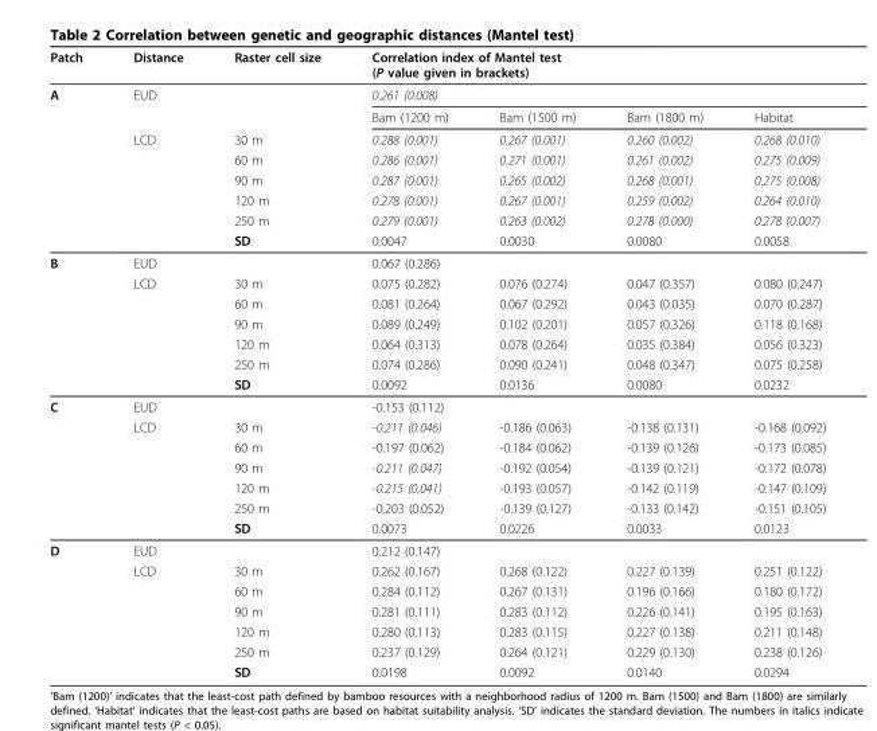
<table><thead><tr><td rowspan="2">Patch A</td><td rowspan="2">Distance EUD</td><td rowspan="2">Raster cell size</td><td colspan="4">Correlation index of Mantel test (P value given in brackets)</td></tr><tr><td>0.261 (0.008)</td><td></td><td></td><td></td></tr></thead><tbody><tr><td></td><td></td><td></td><td>Bam (1200 m)</td><td>Bam (1500 m)</td><td>Bam (1800 m)</td><td>Habitat</td></tr><tr><td></td><td>LCD</td><td>30 m</td><td>0.288 (0.001)</td><td>0.267 (0.001)</td><td>0.260 (0.002)</td><td>0.268 (0.010)</td></tr><tr><td></td><td></td><td>60 m</td><td>0.286 (0.001)</td><td>0.271 (0.001)</td><td>0.261 (0.002)</td><td>0.275 (0.009)</td></tr><tr><td></td><td></td><td>90 m</td><td>0.287 (0.001)</td><td>0.265 (0.002)</td><td>0.268 (0.001)</td><td>0.275 (0.008)</td></tr><tr><td></td><td></td><td>120 m</td><td>0.278 (0.001)</td><td>0.267 (0.001)</td><td>0.259 (0.002)</td><td>0.264 (0.010)</td></tr><tr><td></td><td></td><td>250 m</td><td>0.279 (0.001)</td><td>0.263 (0.002)</td><td>0.278 (0.000)</td><td>0.278 (0.007)</td></tr><tr><td></td><td></td><td>SD</td><td>0.0047</td><td>0.0030</td><td>0.0080</td><td>0.0058</td></tr><tr><td rowspan="7">B</td><td>EUD</td><td></td><td>0.067 (0.286)</td><td></td><td></td><td></td></tr><tr><td>LCD</td><td>30 m</td><td>0.075 (0.282)</td><td>0.076 (0.274)</td><td>0.047 (0.357)</td><td>0.080 (0.247)</td></tr><tr><td></td><td>60 m</td><td>0.081 (0.264)</td><td>0.067 (0.292)</td><td>0.043 (0.035)</td><td>0.070 (0.287)</td></tr><tr><td></td><td>90 m</td><td>0.089 (0.249)</td><td>0.102 (0.201)</td><td>0.057 (0.326)</td><td>0.118 (0.168)</td></tr><tr><td></td><td>120 m</td><td>0.064 (0.313)</td><td>0.078 (0.264)</td><td>0.035 (0.384)</td><td>0.056 (0.323)</td></tr><tr><td></td><td>250 m</td><td>0.074 (0.286)</td><td>0.090 (0.241)</td><td>0.048 (0.347)</td><td>0.075 (0.258)</td></tr><tr><td></td><td>SD</td><td>0.0092</td><td>0.0136</td><td>0.0080</td><td>0.0232</td></tr><tr><td rowspan="7">C</td><td>EUD</td><td></td><td>-0.153 (0.112)</td><td></td><td></td><td></td></tr><tr><td>LCD</td><td>30 m</td><td>-0.211 (0.046)</td><td>-0.186 (0.063)</td><td>-0.138 (0.131)</td><td>-0.168 (0.092)</td></tr><tr><td></td><td>60 m</td><td>-0.197 (0.062)</td><td>-0.184 (0.062)</td><td>-0.139 (0.126)</td><td>-0.173 (0.085)</td></tr><tr><td></td><td>90 m</td><td>-0.211 (0.047)</td><td>-0.192 (0.054)</td><td>-0.139 (0.121)</td><td>-0.172 (0.078)</td></tr><tr><td></td><td>120 m</td><td>-0.215 (0.041)</td><td>-0.193 (0.057)</td><td>-0.142 (0.119)</td><td>-0.147 (0.109)</td></tr><tr><td></td><td>250 m</td><td>-0.203 (0.052)</td><td>-0.139 (0.127)</td><td>-0.133 (0.142)</td><td>-0.151 (0.105)</td></tr><tr><td></td><td>SD</td><td>0.0073</td><td>0.0226</td><td>0.0033</td><td>0.0123</td></tr><tr><td rowspan="7">D</td><td>EUD</td><td></td><td>0.212 (0.147)</td><td></td><td></td><td></td></tr><tr><td>LCD</td><td>30 m</td><td>0.262 (0.167)</td><td>0.268 (0.122)</td><td>0.227 (0.139)</td><td>0.251 (0.122)</td></tr><tr><td></td><td>60 m</td><td>0.284 (0.112)</td><td>0.267 (0.131)</td><td>0.196 (0.166)</td><td>0.180 (0.172)</td></tr><tr><td></td><td>90 m</td><td>0.281 (0.111)</td><td>0.283 (0.112)</td><td>0.226 (0.141)</td><td>0.195 (0.163)</td></tr><tr><td></td><td>120 m</td><td>0.280 (0.113)</td><td>0.283 (0.115)</td><td>0.227 (0.138)</td><td>0.211 (0.148)</td></tr><tr><td></td><td>250 m</td><td>0.237 (0.129)</td><td>0.264 (0.121)</td><td>0.229 (0.130)</td><td>0.238 (0.126)</td></tr><tr><td></td><td>SD</td><td>0.0198</td><td>0.0092</td><td>0.0140</td><td>0.0294</td></tr></tbody></table>